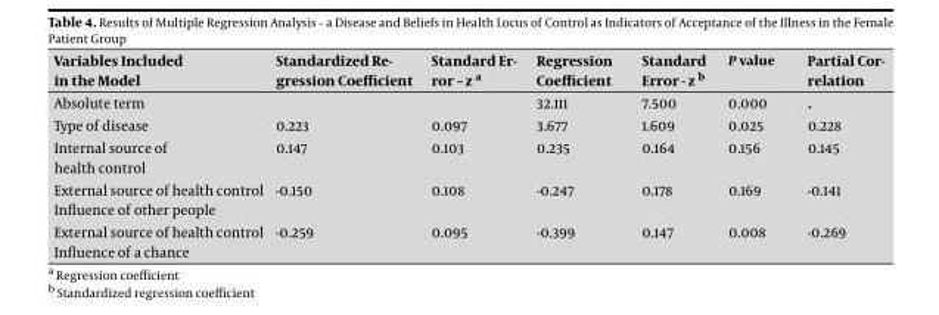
<table><thead><tr><td>Variables Included in the Model</td><td>Standardized Re- gression Coefficient</td><td>Standard Er- ror – z a</td><td>Regression Coefficient</td><td>Standard Error - z b</td><td>P value</td><td>Partial Cor- relation</td></tr></thead><tbody><tr><td>Absolute term</td><td></td><td></td><td>32.111</td><td>7.500</td><td>0.000</td><td>.</td></tr><tr><td>Type of disease</td><td>0.223</td><td>0.097</td><td>3.677</td><td>1.609</td><td>0.025</td><td>0.228</td></tr><tr><td>Internal source of health control</td><td>0.147</td><td>0.103</td><td>0.235</td><td>0.164</td><td>0.156</td><td>0.145</td></tr><tr><td>External source of health control Influence of other people</td><td>-0.150</td><td>0.108</td><td>-0.247</td><td>0.178</td><td>0.169</td><td>-0.141</td></tr><tr><td>External source of health control Influence of a chance</td><td>-0.259</td><td>0.095</td><td>-0.399</td><td>0.147</td><td>0.008</td><td>-0.269</td></tr></tbody></table>